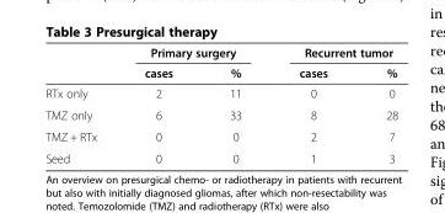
<table><thead><tr><td rowspan="2"></td><td colspan="2">Primary surgery</td><td colspan="2">Recurrent tumor</td></tr><tr><td>cases</td><td>%</td><td>cases</td><td>%</td></tr></thead><tbody><tr><td>RTx only</td><td>2</td><td>11</td><td>0</td><td>0</td></tr><tr><td>TMZ only</td><td>6</td><td>33</td><td>8</td><td>28</td></tr><tr><td>TMZ + RTx</td><td>0</td><td>0</td><td>2</td><td>7</td></tr><tr><td>Seed</td><td>0</td><td>0</td><td>1</td><td>3</td></tr></tbody></table>